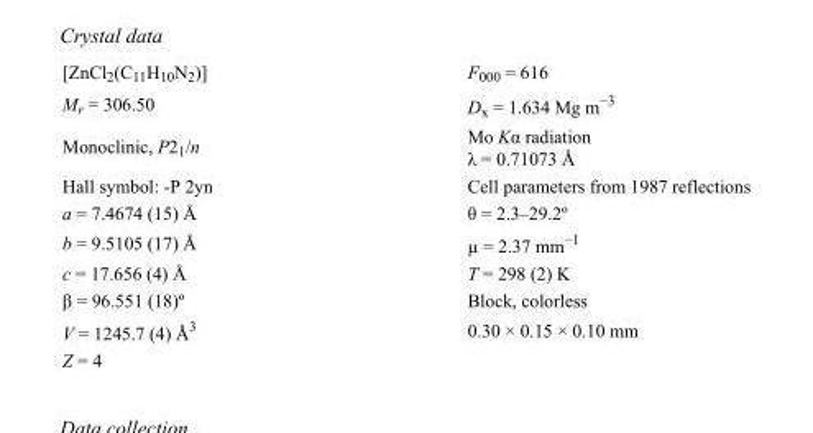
<table><tbody><tr><td>[ZnCl<sub>2</sub>(C<sub>11</sub>H<sub>10</sub>N<sub>2</sub>)]</td><td>F000 = 616</td></tr><tr><td>M<sub>r</sub> = 306.50</td><td>D<sub>x</sub> = 1.634 Mg m<sup>−3</sup></td></tr><tr><td>Monoclinic, P2<sub>1</sub>/n</td><td>Mo Kα radiation λ = 0.71073 Å</td></tr><tr><td>Hall symbol: -P 2yn</td><td>Cell parameters from 1987 reflections</td></tr><tr><td>a = 7.4674 (15) Å</td><td>θ = 2.3–29.2º</td></tr><tr><td>b = 9.5105 (17) Å</td><td>µ = 2.37 mm<sup>−1</sup></td></tr><tr><td>c = 17.656 (4) Å</td><td>T = 298 (2) K</td></tr><tr><td>β = 96.551 (18)º</td><td>Block, colorless</td></tr><tr><td>V = 1245.7 (4) Å<sup>3</sup></td><td>0.30 × 0.15 × 0.10 mm</td></tr><tr><td>Z = 4</td><td></td></tr></tbody></table>